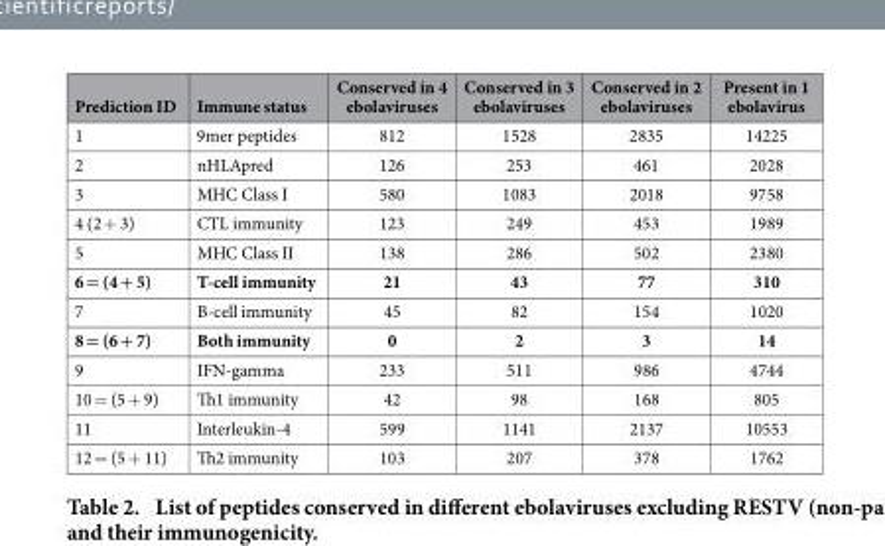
<table><thead><tr><td>Prediction ID</td><td>Immune status</td><td>Conserved in 4 ebolaviruses</td><td>Conserved in 3 ebolaviruses</td><td>Conserved in 2 ebolaviruses</td><td>Present in 1 ebolavirus</td></tr></thead><tbody><tr><td>1</td><td>9mer peptides</td><td>812</td><td>1528</td><td>2835</td><td>14225</td></tr><tr><td>2</td><td>nHLApred</td><td>126</td><td>253</td><td>461</td><td>2028</td></tr><tr><td>3</td><td>MHC Class I</td><td>580</td><td>1083</td><td>2018</td><td>9758</td></tr><tr><td>4 (2 + 3)</td><td>CTL immunity</td><td>123</td><td>249</td><td>453</td><td>1989</td></tr><tr><td>5</td><td>MHC Class II</td><td>138</td><td>286</td><td>502</td><td>2380</td></tr><tr><td>6 = (4 + 5)</td><td>T-cell immunity</td><td>21</td><td>43</td><td>77</td><td>310</td></tr><tr><td>7</td><td>B-cell immunity</td><td>45</td><td>82</td><td>154</td><td>1020</td></tr><tr><td>8 = (6 + 7)</td><td>Both immunity</td><td>0</td><td>2</td><td>3</td><td>14</td></tr><tr><td>9</td><td>IFN-gamma</td><td>233</td><td>511</td><td>986</td><td>4744</td></tr><tr><td>10 = (5 + 9)</td><td>Th1 immunity</td><td>42</td><td>98</td><td>168</td><td>805</td></tr><tr><td>11</td><td>Interleukin-4</td><td>599</td><td>1141</td><td>2137</td><td>10553</td></tr><tr><td>12 = (5 + 11)</td><td>Th2 immunity</td><td>103</td><td>207</td><td>378</td><td>1762</td></tr></tbody></table>